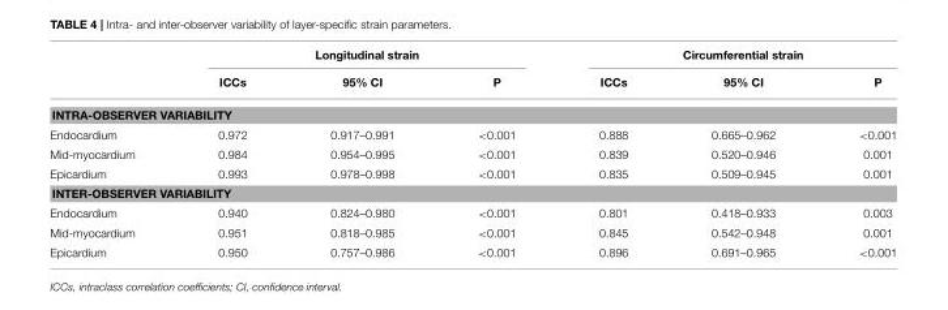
<table><thead><tr><td rowspan="2"></td><td colspan="3">Longitudinal strain</td><td colspan="3">Circumferential strain</td></tr><tr><td>ICCs</td><td>95% CI</td><td>P</td><td>ICCs</td><td>95% CI</td><td>P</td></tr></thead><tbody><tr><td colspan="7">INTRA-OBSERVER VARIABILITY</td></tr><tr><td>Endocardium</td><td>0.972</td><td>0.917–0.991</td><td>&lt;0.001</td><td>0.888</td><td>0.665–0.962</td><td>&lt;0.001</td></tr><tr><td>Mid-myocardium</td><td>0.984</td><td>0.954–0.995</td><td>&lt;0.001</td><td>0.839</td><td>0.520–0.946</td><td>0.001</td></tr><tr><td>Epicardium</td><td>0.993</td><td>0.978–0.998</td><td>&lt;0.001</td><td>0.835</td><td>0.509–0.945</td><td>0.001</td></tr><tr><td colspan="7">INTER-OBSERVER VARIABILITY</td></tr><tr><td>Endocardium</td><td>0.940</td><td>0.824–0.980</td><td>&lt;0.001</td><td>0.801</td><td>0.418–0.933</td><td>0.003</td></tr><tr><td>Mid-myocardium</td><td>0.951</td><td>0.818–0.985</td><td>&lt;0.001</td><td>0.845</td><td>0.542–0.948</td><td>0.001</td></tr><tr><td>Epicardium</td><td>0.950</td><td>0.757–0.986</td><td>&lt;0.001</td><td>0.896</td><td>0.691–0.965</td><td>&lt;0.001</td></tr></tbody></table>